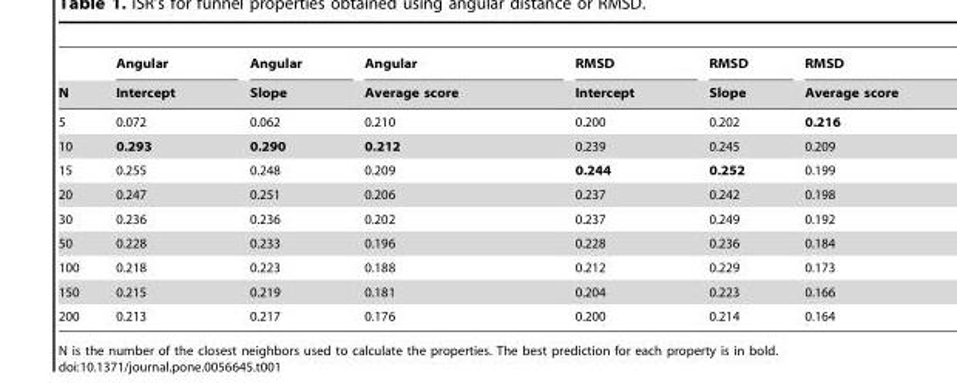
<table><thead><tr><td rowspan="2">N</td><td rowspan="2">Angular Intercept</td><td rowspan="2">Angular Slope</td><td rowspan="2">Angular Average score</td><td rowspan="2">RMSD Intercept</td><td rowspan="2">RMSD Slope</td><td rowspan="2">RMSD Average score</td></tr><tr></tr></thead><tbody><tr><td>5</td><td>0.072</td><td>0.062</td><td>0.210</td><td>0.200</td><td>0.202</td><td>0.216</td></tr><tr><td>10</td><td>0.293</td><td>0.290</td><td>0.212</td><td>0.239</td><td>0.245</td><td>0.209</td></tr><tr><td>15</td><td>0.255</td><td>0.248</td><td>0.209</td><td>0.244</td><td>0.252</td><td>0.199</td></tr><tr><td>20</td><td>0.247</td><td>0.251</td><td>0.206</td><td>0.237</td><td>0.242</td><td>0.198</td></tr><tr><td>30</td><td>0.236</td><td>0.236</td><td>0.202</td><td>0.237</td><td>0.249</td><td>0.192</td></tr><tr><td>50</td><td>0.228</td><td>0.233</td><td>0.196</td><td>0.228</td><td>0.236</td><td>0.184</td></tr><tr><td>100</td><td>0.218</td><td>0.223</td><td>0.188</td><td>0.212</td><td>0.229</td><td>0.173</td></tr><tr><td>150</td><td>0.215</td><td>0.219</td><td>0.181</td><td>0.204</td><td>0.223</td><td>0.166</td></tr><tr><td>200</td><td>0.213</td><td>0.217</td><td>0.176</td><td>0.200</td><td>0.214</td><td>0.164</td></tr></tbody></table>